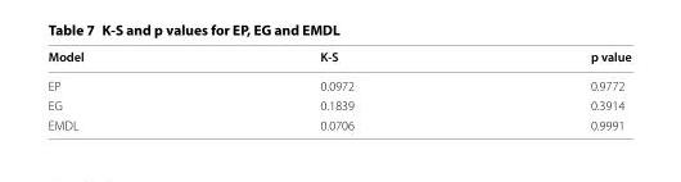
<table><thead><tr><td>Model</td><td>K-S</td><td>p value</td></tr></thead><tbody><tr><td>EP</td><td>0.0972</td><td>0.9772</td></tr><tr><td>EG</td><td>0.1839</td><td>0.3914</td></tr><tr><td>EMDL</td><td>0.0706</td><td>0.9991</td></tr></tbody></table>